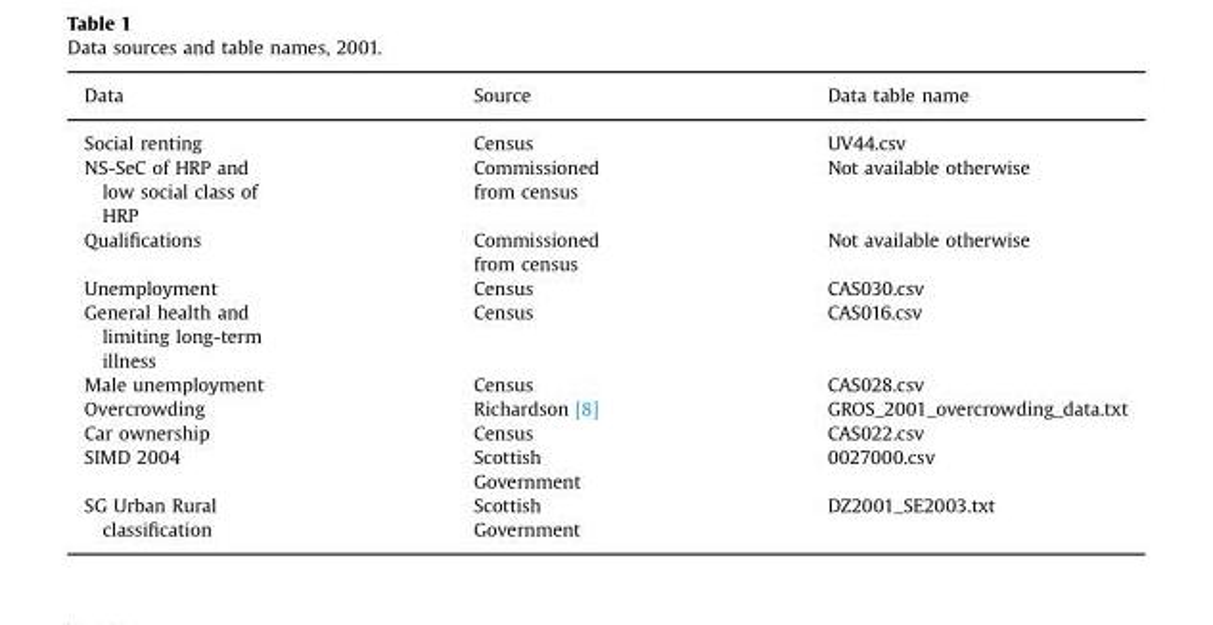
<table><thead><tr><td>Data</td><td>Source</td><td>Data table name</td></tr></thead><tbody><tr><td>Social renting</td><td>Census</td><td>UV44.csv</td></tr><tr><td>NS-SeC of HRP and low social class of HRP</td><td>Commissioned from census</td><td>Not available otherwise</td></tr><tr><td>Qualifications</td><td>Commissioned from census</td><td>Not available otherwise</td></tr><tr><td>Unemployment</td><td>Census</td><td>CAS030.csv</td></tr><tr><td>General health and limiting long-term illness</td><td>Census</td><td>CAS016.csv</td></tr><tr><td>Male unemployment</td><td>Census</td><td>CAS028.csv</td></tr><tr><td>Overcrowding</td><td>Richardson [8]</td><td>GROS_2001_overcrowding_data.txt</td></tr><tr><td>Car ownership</td><td>Census</td><td>CAS022.csv</td></tr><tr><td>SIMD 2004</td><td>Scottish Government</td><td>0027000.csv</td></tr><tr><td>SG Urban Rural classification</td><td>Scottish Government</td><td>DZ2001_SE2003.txt</td></tr></tbody></table>